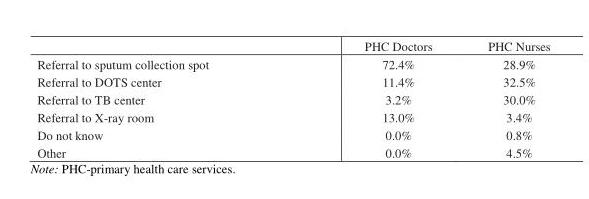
<table><thead><tr><td></td><td>PHC Doctors</td><td>PHC Nurses</td></tr></thead><tbody><tr><td>Referral to sputum collection spot</td><td>72.4%</td><td>28.9%</td></tr><tr><td>Referral to DOTS center</td><td>11.4%</td><td>32.5%</td></tr><tr><td>Referral to TB center</td><td>3.2%</td><td>30.0%</td></tr><tr><td>Referral to X-ray room</td><td>13.0%</td><td>3.4%</td></tr><tr><td>Do not know</td><td>0.0%</td><td>0.8%</td></tr><tr><td>Other</td><td>0.0%</td><td>4.5%</td></tr></tbody></table>